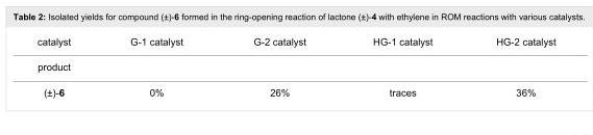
<table><tbody><tr><td>catalyst</td><td>G-1 catalyst</td><td>G-2 catalyst</td><td>HG-1 catalyst</td><td>HG-2 catalyst</td></tr><tr><td colspan="5">product</td></tr><tr><td>(±)-6</td><td>0%</td><td>26%</td><td>traces</td><td>36%</td></tr></tbody></table>